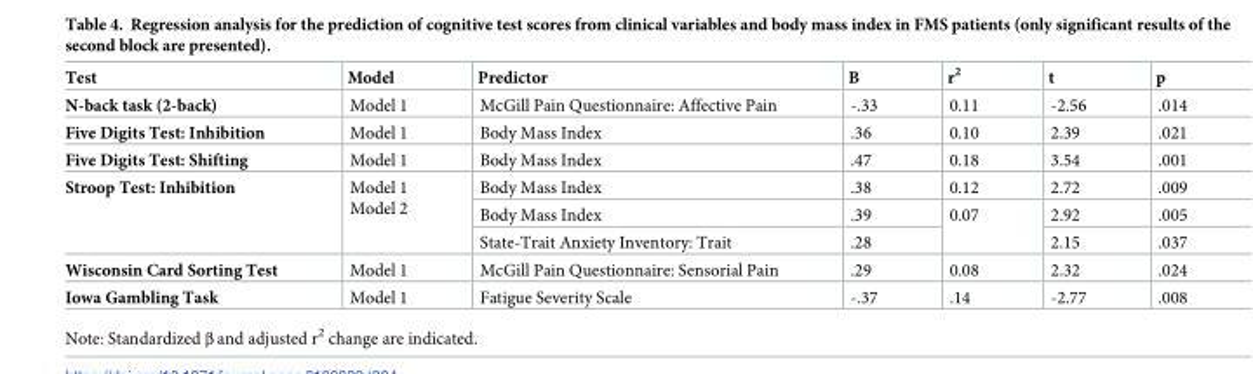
<table><thead><tr><td>Test</td><td>Model</td><td>Predictor</td><td>Β</td><td>r<sup>2</sup></td><td>t</td><td>p</td></tr></thead><tbody><tr><td>N-back task (2-back)</td><td>Model 1</td><td>McGill Pain Questionnaire: Affective Pain</td><td>-.33</td><td>0.11</td><td>-2.56</td><td>.014</td></tr><tr><td>Five Digits Test: Inhibition</td><td>Model 1</td><td>Body Mass Index</td><td>.36</td><td>0.10</td><td>2.39</td><td>.021</td></tr><tr><td>Five Digits Test: Shifting</td><td>Model 1</td><td>Body Mass Index</td><td>.47</td><td>0.18</td><td>3.54</td><td>.001</td></tr><tr><td rowspan="3">Stroop Test: Inhibition</td><td rowspan="3">Model 1 Model 2</td><td>Body Mass Index</td><td>.38</td><td>0.12</td><td>2.72</td><td>.009</td></tr><tr><td>Body Mass Index</td><td>.39</td><td rowspan="2">0.07</td><td>2.92</td><td>.005</td></tr><tr><td>State-Trait Anxiety Inventory: Trait</td><td>.28</td><td>2.15</td><td>.037</td></tr><tr><td>Wisconsin Card Sorting Test</td><td>Model 1</td><td>McGill Pain Questionnaire: Sensorial Pain</td><td>.29</td><td>0.08</td><td>2.32</td><td>.024</td></tr><tr><td>Iowa Gambling Task</td><td>Model 1</td><td>Fatigue Severity Scale</td><td>-.37</td><td>.14</td><td>-2.77</td><td>.008</td></tr></tbody></table>